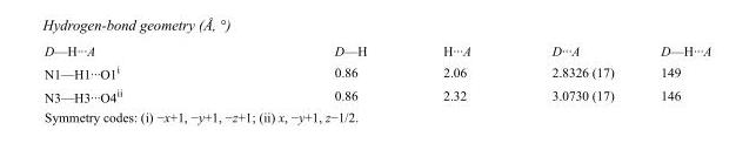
<table><tbody><tr><td>D—H···A</td><td>D—H</td><td>H···A</td><td>D···A</td><td>D—H···A</td></tr><tr><td>N1—H1···O1<sup>i</sup></td><td>0.86</td><td>2.06</td><td>2.8326 (17)</td><td>149</td></tr><tr><td>N3—H3···O4<sup>ii</sup></td><td>0.86</td><td>2.32</td><td>3.0730 (17)</td><td>146</td></tr></tbody></table>